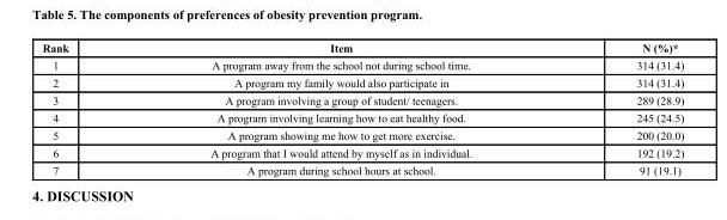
<table><thead><tr><td>Rank</td><td>Item</td><td>N (%)*</td></tr></thead><tbody><tr><td>1</td><td>A program away from the school not during school time.</td><td>314 (31.4)</td></tr><tr><td>2</td><td>A program my family would also participate in</td><td>314 (31.4)</td></tr><tr><td>3</td><td>A program involving a group of student/ teenagers.</td><td>289 (28.9)</td></tr><tr><td>4</td><td>A program involving learning how to eat healthy food.</td><td>245 (24.5)</td></tr><tr><td>5</td><td>A program showing me how to get more exercise.</td><td>200 (20.0)</td></tr><tr><td>6</td><td>A program that I would attend by myself as in individual.</td><td>192 (19.2)</td></tr><tr><td>7</td><td>A program during school hours at school.</td><td>91 (19.1)</td></tr></tbody></table>